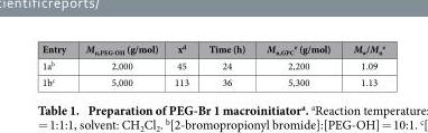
<table><thead><tr><td>Entry</td><td>M<sub>n,PEG-OH</sub> (g/mol)</td><td>x<sup>d</sup></td><td>Time (h)</td><td>M<sub>n,GPC</sub> <sup>e</sup> (g/mol)</td><td>M<sub>w</sub>/M<sub>n</sub> <sup>e</sup></td></tr></thead><tbody><tr><td>1a<sup>b</sup></td><td>2,000</td><td>45</td><td>24</td><td>2,200</td><td>1.09</td></tr><tr><td>1b<sup>c</sup></td><td>5,000</td><td>113</td><td>36</td><td>5,300</td><td>1.13</td></tr></tbody></table>